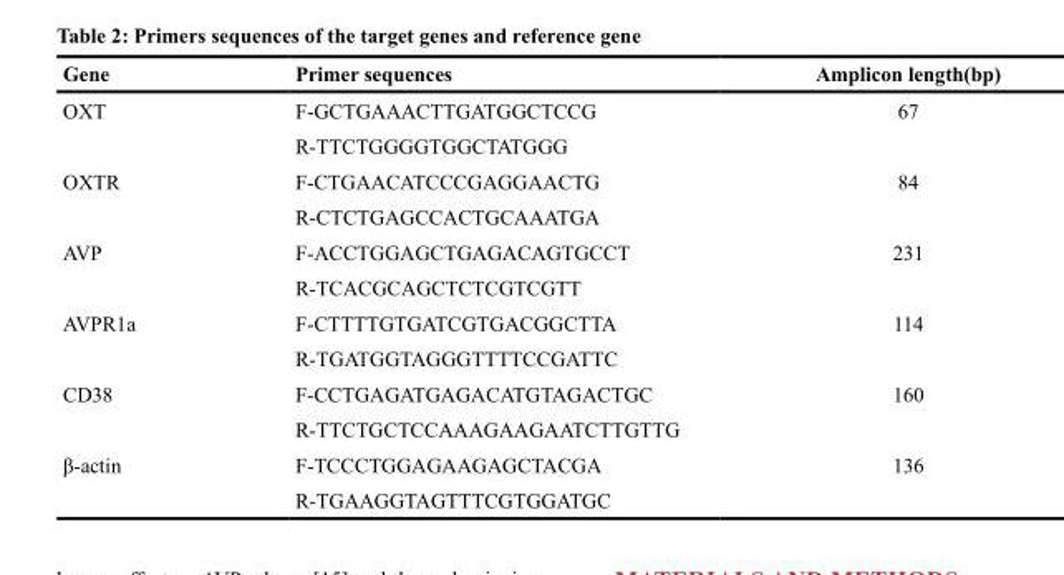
<table><thead><tr><td>Gene</td><td>Primer sequences</td><td>Amplicon length(bp)</td></tr></thead><tbody><tr><td rowspan="2">OXT</td><td>F-GCTGAAACTTGATGGCTCCG</td><td>67</td></tr><tr><td>R-TTCTGGGGTGGCTATGGG</td><td></td></tr><tr><td rowspan="2">OXTR</td><td>F-CTGAACATCCCGAGGAACTG</td><td>84</td></tr><tr><td>R-CTCTGAGCCACTGCAAATGA</td><td></td></tr><tr><td rowspan="2">AVP</td><td>F-ACCTGGAGCTGAGACAGTGCCT</td><td>231</td></tr><tr><td>R-TCACGCAGCTCTCGTCGTT</td><td></td></tr><tr><td rowspan="2">AVPR1a</td><td>F-CTTTTGTGATCGTGACGGCTTA</td><td>114</td></tr><tr><td>R-TGATGGTAGGGTTTTCCGATTC</td><td></td></tr><tr><td rowspan="2">CD38</td><td>F-CCTGAGATGAGACATGTAGACTGC</td><td>160</td></tr><tr><td>R-TTCTGCTCCAAAGAAGAATCTTGTTG</td><td></td></tr><tr><td rowspan="2">β-actin</td><td>F-TCCCTGGAGAAGAGCTACGA</td><td>136</td></tr><tr><td>R-TGAAGGTAGTTTCGTGGATGC</td><td></td></tr></tbody></table>